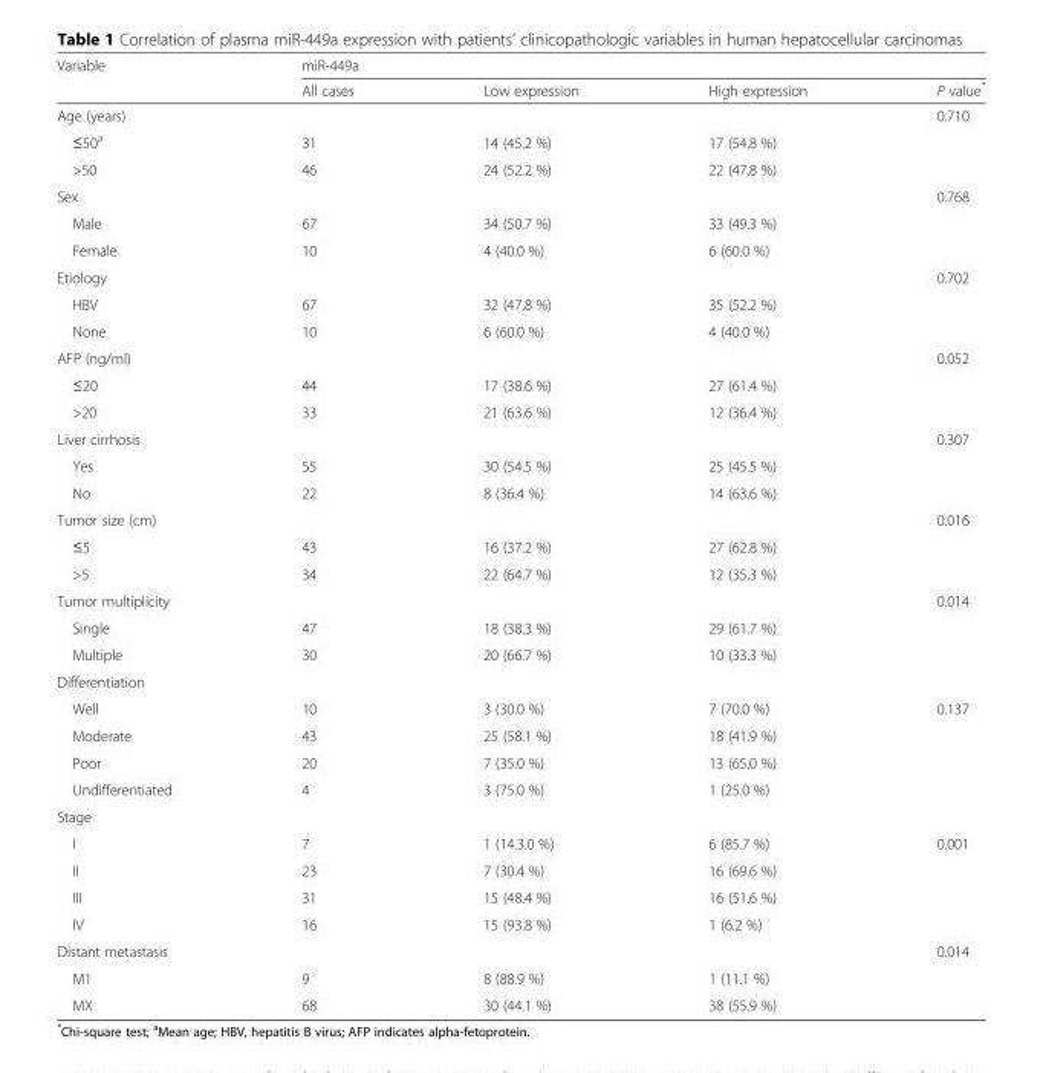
<table><thead><tr><td rowspan="2">Variable</td><td colspan="4">miR-449a</td></tr><tr><td>All cases</td><td>Low expression</td><td>High expression</td><td>P value*</td></tr></thead><tbody><tr><td>Age (years)</td><td></td><td></td><td></td><td>0.710</td></tr><tr><td>≤50<sup>a</sup></td><td>31</td><td>14 (45.2 %)</td><td>17 (54.8 %)</td><td></td></tr><tr><td>&gt;50</td><td>46</td><td>24 (52.2 %)</td><td>22 (47.8 %)</td><td></td></tr><tr><td>Sex</td><td></td><td></td><td></td><td>0.768</td></tr><tr><td>Male</td><td>67</td><td>34 (50.7 %)</td><td>33 (49.3 %)</td><td></td></tr><tr><td>Female</td><td>10</td><td>4 (40.0 %)</td><td>6 (60.0 %)</td><td></td></tr><tr><td>Etiology</td><td></td><td></td><td></td><td>0.702</td></tr><tr><td>HBV</td><td>67</td><td>32 (47.8 %)</td><td>35 (52.2 %)</td><td></td></tr><tr><td>None</td><td>10</td><td>6 (60.0 %)</td><td>4 (40.0 %)</td><td></td></tr><tr><td>AFP (ng/ml)</td><td></td><td></td><td></td><td>0.052</td></tr><tr><td>≤20</td><td>44</td><td>17 (38.6 %)</td><td>27 (61.4 %)</td><td></td></tr><tr><td>&gt;20</td><td>33</td><td>21 (63.6 %)</td><td>12 (36.4 %)</td><td></td></tr><tr><td>Liver cirrhosis</td><td></td><td></td><td></td><td>0.307</td></tr><tr><td>Yes</td><td>55</td><td>30 (54.5 %)</td><td>25 (45.5 %)</td><td></td></tr><tr><td>No</td><td>22</td><td>8 (36.4 %)</td><td>14 (63.6 %)</td><td></td></tr><tr><td>Tumor size (cm)</td><td></td><td></td><td></td><td>0.016</td></tr><tr><td>≤5</td><td>43</td><td>16 (37.2 %)</td><td>27 (62.8 %)</td><td></td></tr><tr><td>&gt;5</td><td>34</td><td>22 (64.7 %)</td><td>12 (35.3 %)</td><td></td></tr><tr><td>Tumor multiplicity</td><td></td><td></td><td></td><td>0.014</td></tr><tr><td>Single</td><td>47</td><td>18 (38.3 %)</td><td>29 (61.7 %)</td><td></td></tr><tr><td>Multiple</td><td>30</td><td>20 (66.7 %)</td><td>10 (33.3 %)</td><td></td></tr><tr><td colspan="5">Differentiation</td></tr><tr><td>Well</td><td>10</td><td>3 (30.0 %)</td><td>7 (70.0 %)</td><td>0.137</td></tr><tr><td>Moderate</td><td>43</td><td>25 (58.1 %)</td><td>18 (41.9 %)</td><td></td></tr><tr><td>Poor</td><td>20</td><td>7 (35.0 %)</td><td>13 (65.0 %)</td><td></td></tr><tr><td>Undifferentiated</td><td>4</td><td>3 (75.0 %)</td><td>1 (25.0 %)</td><td></td></tr><tr><td colspan="5">Stage</td></tr><tr><td>I</td><td>7</td><td>1 (14.3.0 %)</td><td>6 (85.7 %)</td><td>0.001</td></tr><tr><td>II</td><td>23</td><td>7 (30.4 %)</td><td>16 (69.6 %)</td><td></td></tr><tr><td>III</td><td>31</td><td>15 (48.4 %)</td><td>16 (51.6 %)</td><td></td></tr><tr><td>IV</td><td>16</td><td>15 (93.8 %)</td><td>1 (6.2 %)</td><td></td></tr><tr><td>Distant metastasis</td><td></td><td></td><td></td><td>0.014</td></tr><tr><td>M1</td><td>9</td><td>8 (88.9 %)</td><td>1 (11.1 %)</td><td></td></tr><tr><td>MX</td><td>68</td><td>30 (44.1 %)</td><td>38 (55.9 %)</td><td></td></tr></tbody></table>